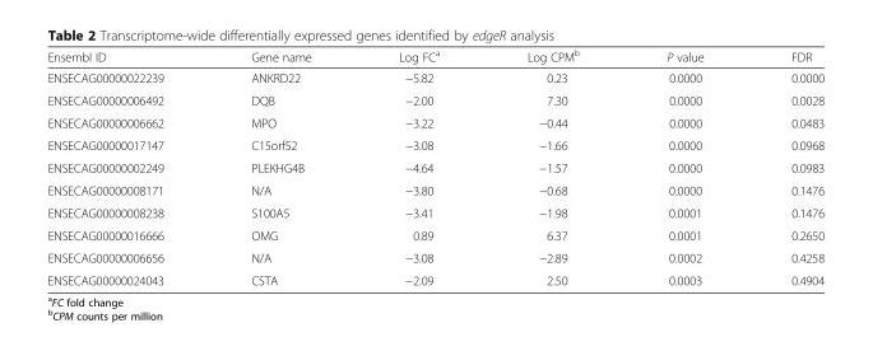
<table><thead><tr><td>Ensembl ID</td><td>Gene name</td><td>Log FC<sup>a</sup></td><td>Log CPM<sup>b</sup></td><td>P value</td><td>FDR</td></tr></thead><tbody><tr><td>ENSECAG00000022239</td><td>ANKRD22</td><td>−5.82</td><td>0.23</td><td>0.0000</td><td>0.0000</td></tr><tr><td>ENSECAG00000006492</td><td>DQB</td><td>−2.00</td><td>7.30</td><td>0.0000</td><td>0.0028</td></tr><tr><td>ENSECAG00000006662</td><td>MPO</td><td>−3.22</td><td>−0.44</td><td>0.0000</td><td>0.0483</td></tr><tr><td>ENSECAG00000017147</td><td>C15orf52</td><td>−3.08</td><td>−1.66</td><td>0.0000</td><td>0.0968</td></tr><tr><td>ENSECAG00000002249</td><td>PLEKHG4B</td><td>−4.64</td><td>−1.57</td><td>0.0000</td><td>0.0983</td></tr><tr><td>ENSECAG00000008171</td><td>N/A</td><td>−3.80</td><td>−0.68</td><td>0.0000</td><td>0.1476</td></tr><tr><td>ENSECAG00000008238</td><td>S100A5</td><td>−3.41</td><td>−1.98</td><td>0.0001</td><td>0.1476</td></tr><tr><td>ENSECAG00000016666</td><td>OMG</td><td>0.89</td><td>6.37</td><td>0.0001</td><td>0.2650</td></tr><tr><td>ENSECAG00000006656</td><td>N/A</td><td>−3.08</td><td>−2.89</td><td>0.0002</td><td>0.4258</td></tr><tr><td>ENSECAG00000024043</td><td>CSTA</td><td>−2.09</td><td>2.50</td><td>0.0003</td><td>0.4904</td></tr></tbody></table>